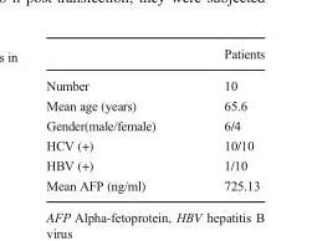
<table><thead><tr><td></td><td>Patients</td></tr></thead><tbody><tr><td>Number</td><td>10</td></tr><tr><td>Mean age (years)</td><td>65.6</td></tr><tr><td>Gender(male/female)</td><td>6/4</td></tr><tr><td>HCV (+)</td><td>10/10</td></tr><tr><td>HBV (+)</td><td>1/10</td></tr><tr><td>Mean AFP (ng/ml)</td><td>725.13</td></tr></tbody></table>